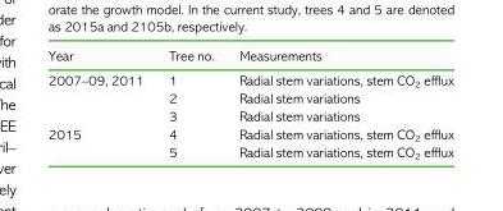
<table><thead><tr><td>Year</td><td>Tree no.</td><td>Measurements</td></tr></thead><tbody><tr><td rowspan="3">2007–09, 2011</td><td>1</td><td>Radial stem variations, stem CO<sub>2</sub> efflux</td></tr><tr><td>2</td><td>Radial stem variations</td></tr><tr><td>3</td><td>Radial stem variations</td></tr><tr><td rowspan="2">2015</td><td>4</td><td>Radial stem variations, stem CO<sub>2</sub> efflux</td></tr><tr><td>5</td><td>Radial stem variations, stem CO<sub>2</sub> efflux</td></tr></tbody></table>